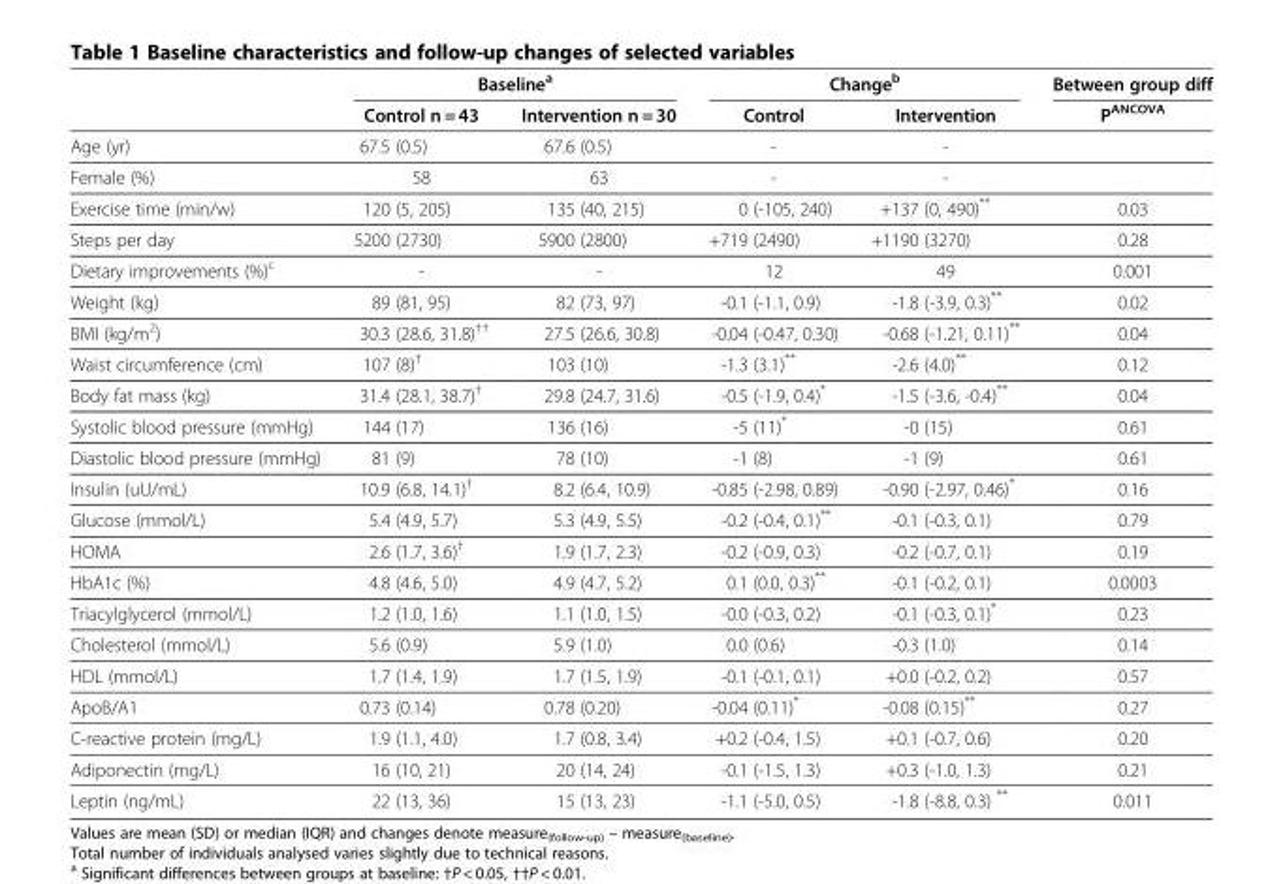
<table><thead><tr><td rowspan="2"></td><td colspan="2">Baseline<sup>a</sup></td><td colspan="2">Change<sup>b</sup></td><td rowspan="2">Between group diff P<sup>ANCOVA</sup></td></tr><tr><td>Control n = 43</td><td>Intervention n = 30</td><td>Control</td><td>Intervention</td></tr></thead><tbody><tr><td>Age (yr)</td><td>67.5 (0.5)</td><td>67.6 (0.5)</td><td>-</td><td>-</td><td></td></tr><tr><td>Female (%)</td><td>58</td><td>63</td><td>-</td><td>-</td><td></td></tr><tr><td>Exercise time (min/w)</td><td>120 (5, 205)</td><td>135 (40, 215)</td><td>0 (-105, 240)</td><td>+137 (0, 490)**</td><td>0.03</td></tr><tr><td>Steps per day</td><td>5200 (2730)</td><td>5900 (2800)</td><td>+719 (2490)</td><td>+1190 (3270)</td><td>0.28</td></tr><tr><td>Dietary improvements (%)<sup>c</sup></td><td>-</td><td>-</td><td>12</td><td>49</td><td>0.001</td></tr><tr><td>Weight (kg)</td><td>89 (81, 95)</td><td>82 (73, 97)</td><td>-0.1 (-1.1, 0.9)</td><td>-1.8 (-3.9, 0.3)**</td><td>0.02</td></tr><tr><td>BMI (kg/m<sup>2</sup>)</td><td>30.3 (28.6, 31.8)<sup>††</sup></td><td>27.5 (26.6, 30.8)</td><td>-0.04 (-0.47, 0.30)</td><td>-0.68 (-1.21, 0.11)**</td><td>0.04</td></tr><tr><td>Waist circumference (cm)</td><td>107 (8)<sup>†</sup></td><td>103 (10)</td><td>-1.3 (3.1)**</td><td>-2.6 (4.0)**</td><td>0.12</td></tr><tr><td>Body fat mass (kg)</td><td>31.4 (28.1, 38.7)<sup>†</sup></td><td>29.8 (24.7, 31.6)</td><td>-0.5 (-1.9, 0.4)*</td><td>-1.5 (-3.6, -0.4)**</td><td>0.04</td></tr><tr><td>Systolic blood pressure (mmHg)</td><td>144 (17)</td><td>136 (16)</td><td>-5 (11)*</td><td>-0 (15)</td><td>0.61</td></tr><tr><td>Diastolic blood pressure (mmHg)</td><td>81 (9)</td><td>78 (10)</td><td>-1 (8)</td><td>-1 (9)</td><td>0.61</td></tr><tr><td>Insulin (uU/mL)</td><td>10.9 (6.8, 14.1)<sup>†</sup></td><td>8.2 (6.4, 10.9)</td><td>-0.85 (-2.98, 0.89)</td><td>-0.90 (-2.97, 0.46)*</td><td>0.16</td></tr><tr><td>Glucose (mmol/L)</td><td>5.4 (4.9, 5.7)</td><td>5.3 (4.9, 5.5)</td><td>-0.2 (-0.4, 0.1)**</td><td>-0.1 (-0.3, 0.1)</td><td>0.79</td></tr><tr><td>HOMA</td><td>2.6 (1.7, 3.6)<sup>†</sup></td><td>1.9 (1.7, 2.3)</td><td>-0.2 (-0.9, 0.3)</td><td>-0.2 (-0.7, 0.1)</td><td>0.19</td></tr><tr><td>HbA1c (%)</td><td>4.8 (4.6, 5.0)</td><td>4.9 (4.7, 5.2)</td><td>0.1 (0.0, 0.3)**</td><td>-0.1 (-0.2, 0.1)</td><td>0.0003</td></tr><tr><td>Triacylglycerol (mmol/L)</td><td>1.2 (1.0, 1.6)</td><td>1.1 (1.0, 1.5)</td><td>-0.0 (-0.3, 0.2)</td><td>-0.1 (-0.3, 0.1)*</td><td>0.23</td></tr><tr><td>Cholesterol (mmol/L)</td><td>5.6 (0.9)</td><td>5.9 (1.0)</td><td>0.0 (0.6)</td><td>-0.3 (1.0)</td><td>0.14</td></tr><tr><td>HDL (mmol/L)</td><td>1.7 (1.4, 1.9)</td><td>1.7 (1.5, 1.9)</td><td>-0.1 (-0.1, 0.1)</td><td>+0.0 (-0.2, 0.2)</td><td>0.57</td></tr><tr><td>ApoB/A1</td><td>0.73 (0.14)</td><td>0.78 (0.20)</td><td>-0.04 (0.11)*</td><td>-0.08 (0.15)**</td><td>0.27</td></tr><tr><td>C-reactive protein (mg/L)</td><td>1.9 (1.1, 4.0)</td><td>1.7 (0.8, 3.4)</td><td>+0.2 (-0.4, 1.5)</td><td>+0.1 (-0.7, 0.6)</td><td>0.20</td></tr><tr><td>Adiponectin (mg/L)</td><td>16 (10, 21)</td><td>20 (14, 24)</td><td>-0.1 (-1.5, 1.3)</td><td>+0.3 (-1.0, 1.3)</td><td>0.21</td></tr><tr><td>Leptin (ng/mL)</td><td>22 (13, 36)</td><td>15 (13, 23)</td><td>-1.1 (-5.0, 0.5)</td><td>-1.8 (-8.8, 0.3) **</td><td>0.011</td></tr></tbody></table>